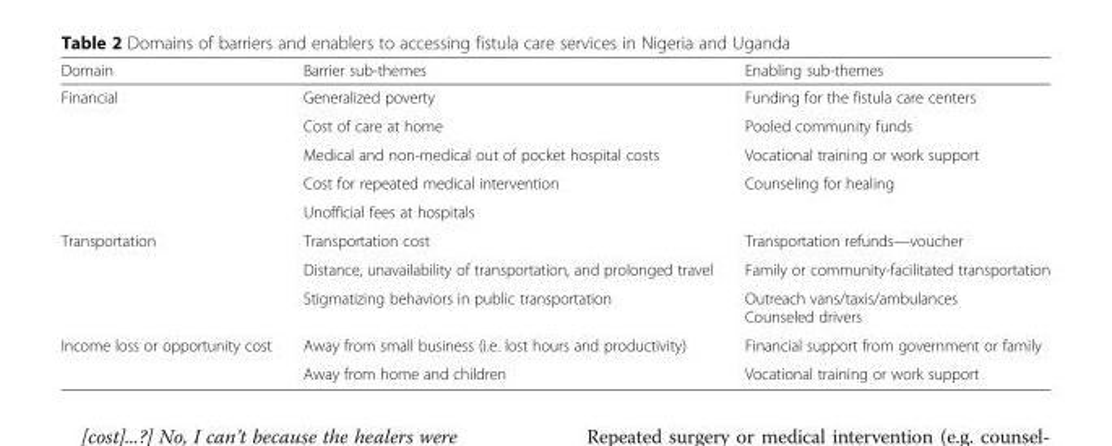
<table><thead><tr><td>Domain</td><td>Barrier sub-themes</td><td>Enabling sub-themes</td></tr></thead><tbody><tr><td rowspan="5">Financial</td><td>Generalized poverty</td><td>Funding for the fistula care centers</td></tr><tr><td>Cost of care at home</td><td>Pooled community funds</td></tr><tr><td>Medical and non-medical out of pocket hospital costs</td><td>Vocational training or work support</td></tr><tr><td>Cost for repeated medical intervention</td><td>Counseling for healing</td></tr><tr><td>Unofficial fees at hospitals</td><td></td></tr><tr><td rowspan="3">Transportation</td><td>Transportation cost</td><td>Transportation refunds—voucher</td></tr><tr><td>Distance, unavailability of transportation, and prolonged travel</td><td>Family or community-facilitated transportation</td></tr><tr><td>Stigmatizing behaviors in public transportation</td><td>Outreach vans/taxis/ambulances Counseled drivers</td></tr><tr><td rowspan="2">Income loss or opportunity cost</td><td>Away from small business (i.e. lost hours and productivity)</td><td>Financial support from government or family</td></tr><tr><td>Away from home and children</td><td>Vocational training or work support</td></tr></tbody></table>